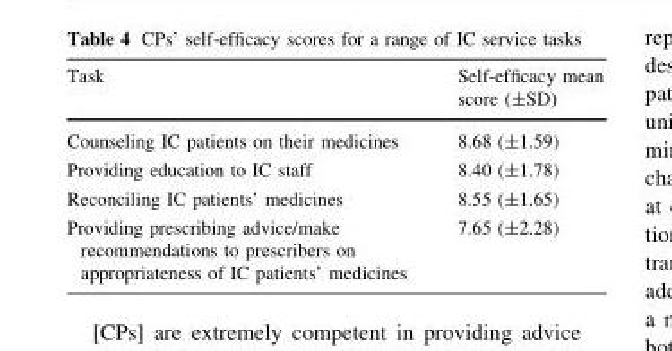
<table><thead><tr><td>Task</td><td>Self-efficacy mean score (±SD)</td></tr></thead><tbody><tr><td>Counseling IC patients on their medicines</td><td>8.68 (±1.59)</td></tr><tr><td>Providing education to IC staff</td><td>8.40 (±1.78)</td></tr><tr><td>Reconciling IC patients’ medicines</td><td>8.55 (±1.65)</td></tr><tr><td>Providing prescribing advice/make recommendations to prescribers on appropriateness of IC patients’ medicines</td><td>7.65 (±2.28)</td></tr></tbody></table>